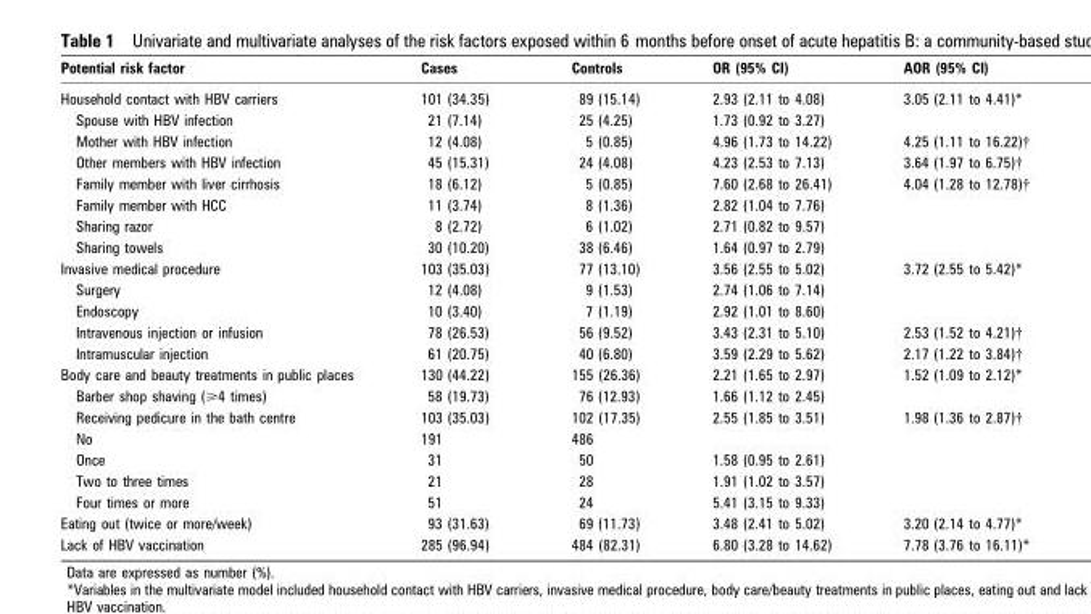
<table><thead><tr><td>Potential risk factor</td><td>Cases</td><td>Controls</td><td>OR (95% CI)</td><td>AOR (95% CI)</td></tr></thead><tbody><tr><td>Household contact with HBV carriers</td><td>101 (34.35)</td><td>89 (15.14)</td><td>2.93 (2.11 to 4.08)</td><td>3.05 (2.11 to 4.41)*</td></tr><tr><td>Spouse with HBV infection</td><td>21 (7.14)</td><td>25 (4.25)</td><td>1.73 (0.92 to 3.27)</td><td></td></tr><tr><td>Mother with HBV infection</td><td>12 (4.08)</td><td>5 (0.85)</td><td>4.96 (1.73 to 14.22)</td><td>4.25 (1.11 to 16.22)†</td></tr><tr><td>Other members with HBV infection</td><td>45 (15.31)</td><td>24 (4.08)</td><td>4.23 (2.53 to 7.13)</td><td>3.64 (1.97 to 6.75)†</td></tr><tr><td>Family member with liver cirrhosis</td><td>18 (6.12)</td><td>5 (0.85)</td><td>7.60 (2.68 to 26.41)</td><td>4.04 (1.28 to 12.78)†</td></tr><tr><td>Family member with HCC</td><td>11 (3.74)</td><td>8 (1.36)</td><td>2.82 (1.04 to 7.76)</td><td></td></tr><tr><td>Sharing razor</td><td>8 (2.72)</td><td>6 (1.02)</td><td>2.71 (0.82 to 9.57)</td><td></td></tr><tr><td>Sharing towels</td><td>30 (10.20)</td><td>38 (6.46)</td><td>1.64 (0.97 to 2.79)</td><td></td></tr><tr><td>Invasive medical procedure</td><td>103 (35.03)</td><td>77 (13.10)</td><td>3.56 (2.55 to 5.02)</td><td>3.72 (2.55 to 5.42)*</td></tr><tr><td>Surgery</td><td>12 (4.08)</td><td>9 (1.53)</td><td>2.74 (1.06 to 7.14)</td><td></td></tr><tr><td>Endoscopy</td><td>10 (3.40)</td><td>7 (1.19)</td><td>2.92 (1.01 to 8.60)</td><td></td></tr><tr><td>Intravenous injection or infusion</td><td>78 (26.53)</td><td>56 (9.52)</td><td>3.43 (2.31 to 5.10)</td><td>2.53 (1.52 to 4.21)†</td></tr><tr><td>Intramuscular injection</td><td>61 (20.75)</td><td>40 (6.80)</td><td>3.59 (2.29 to 5.62)</td><td>2.17 (1.22 to 3.84)†</td></tr><tr><td>Body care and beauty treatments in public places</td><td>130 (44.22)</td><td>155 (26.36)</td><td>2.21 (1.65 to 2.97)</td><td>1.52 (1.09 to 2.12)*</td></tr><tr><td>Barber shop shaving (&gt;4 times)</td><td>58 (19.73)</td><td>76 (12.93)</td><td>1.66 (1.12 to 2.45)</td><td></td></tr><tr><td>Receiving pedicure in the bath centre</td><td>103 (35.03)</td><td>102 (17.35)</td><td>2.55 (1.85 to 3.51)</td><td>1.98 (1.36 to 2.87)†</td></tr><tr><td>No</td><td>191</td><td>486</td><td></td><td></td></tr><tr><td>Once</td><td>31</td><td>50</td><td>1.58 (0.95 to 2.61)</td><td></td></tr><tr><td>Two to three times</td><td>21</td><td>28</td><td>1.91 (1.02 to 3.57)</td><td></td></tr><tr><td>Four times or more</td><td>51</td><td>24</td><td>5.41 (3.15 to 9.33)</td><td></td></tr><tr><td>Eating out (twice or more/week)</td><td>93 (31.63)</td><td>69 (11.73)</td><td>3.48 (2.41 to 5.02)</td><td>3.20 (2.14 to 4.77)*</td></tr><tr><td>Lack of HBV vaccination</td><td>285 (96.94)</td><td>484 (82.31)</td><td>6.80 (3.28 to 14.62)</td><td>7.78 (3.76 to 16.11)*</td></tr></tbody></table>